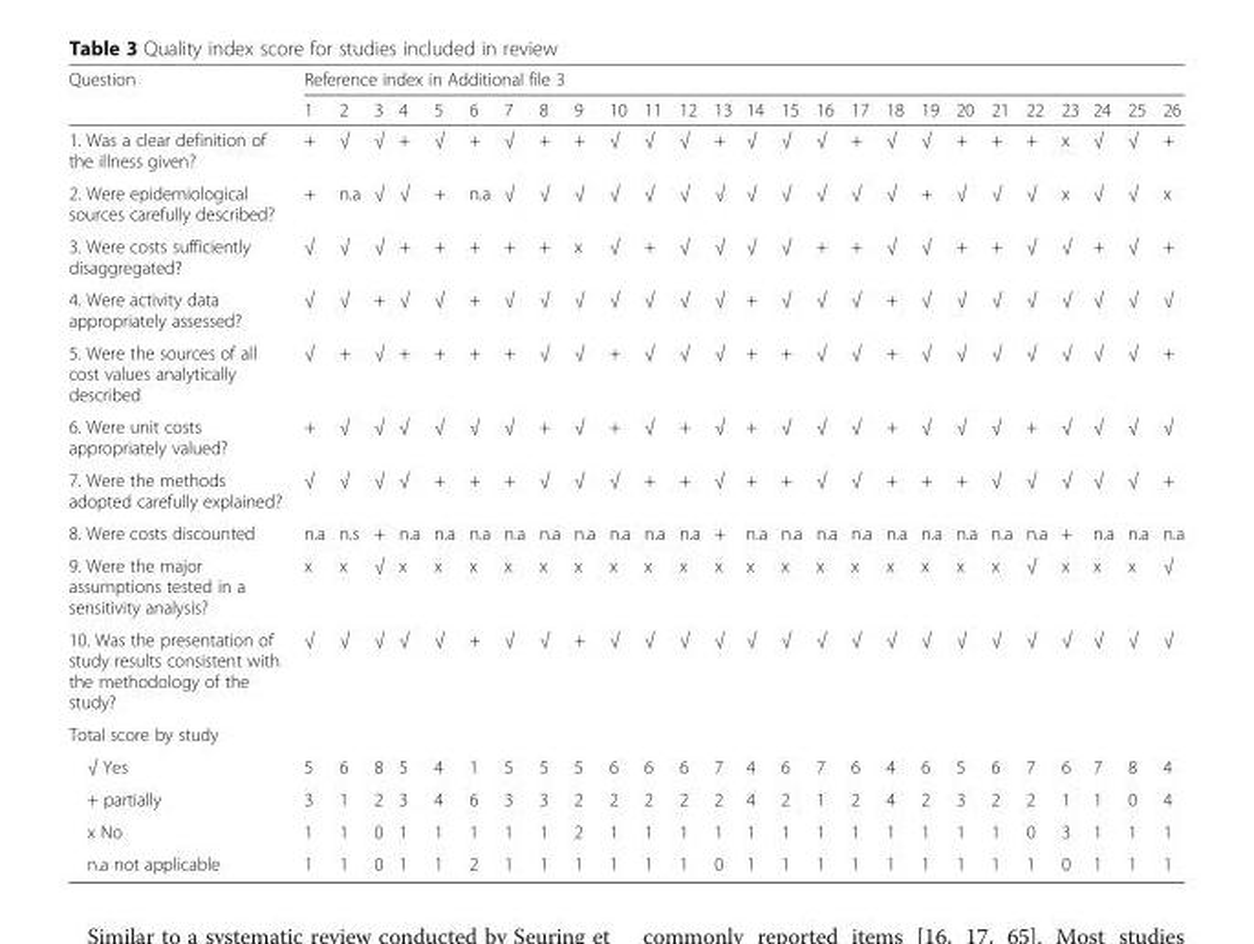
<table><thead><tr><td rowspan="2">Question</td><td colspan="26">Reference index in Additional file 3</td></tr><tr><td>1</td><td>2</td><td>3</td><td>4</td><td>5</td><td>6</td><td>7</td><td>8</td><td>9</td><td>10</td><td>11</td><td>12</td><td>13</td><td>14</td><td>15</td><td>16</td><td>17</td><td>18</td><td>19</td><td>20</td><td>21</td><td>22</td><td>23</td><td>24</td><td>25</td><td>26</td></tr></thead><tbody><tr><td>1. Was a clear definition of the illness given?</td><td>+</td><td>√</td><td>√</td><td>+</td><td>√</td><td>+</td><td>√</td><td>+</td><td>+</td><td>√</td><td>√</td><td>√</td><td>+</td><td>√</td><td>√</td><td>√</td><td>+</td><td>√</td><td>√</td><td>+</td><td>+</td><td>+</td><td>x</td><td>√</td><td>√</td><td>+</td></tr><tr><td>2. Were epidemiological sources carefully described?</td><td>+</td><td>n.a</td><td>√</td><td>√</td><td>+</td><td>n.a</td><td>√</td><td>√</td><td>√</td><td>√</td><td>√</td><td>√</td><td>√</td><td>√</td><td>√</td><td>√</td><td>√</td><td>√</td><td>+</td><td>√</td><td>√</td><td>√</td><td>x</td><td>√</td><td>√</td><td>x</td></tr><tr><td>3. Were costs sufficiently disaggregated?</td><td>√</td><td>√</td><td>√</td><td>+</td><td>+</td><td>+</td><td>+</td><td>+</td><td>x</td><td>√</td><td>+</td><td>√</td><td>√</td><td>√</td><td>√</td><td>+</td><td>+</td><td>√</td><td>√</td><td>+</td><td>+</td><td>√</td><td>√</td><td>+</td><td>√</td><td>+</td></tr><tr><td>4. Were activity data appropriately assessed?</td><td>√</td><td>√</td><td>+</td><td>√</td><td>√</td><td>+</td><td>√</td><td>√</td><td>√</td><td>√</td><td>√</td><td>√</td><td>√</td><td>+</td><td>√</td><td>√</td><td>√</td><td>+</td><td>√</td><td>√</td><td>√</td><td>√</td><td>√</td><td>√</td><td>√</td><td>√</td></tr><tr><td>5. Were the sources of all cost values analytically described</td><td>√</td><td>+</td><td>√</td><td>+</td><td>+</td><td>+</td><td>+</td><td>√</td><td>√</td><td>+</td><td>√</td><td>√</td><td>√</td><td>+</td><td>+</td><td>√</td><td>√</td><td>+</td><td>√</td><td>√</td><td>√</td><td>√</td><td>√</td><td>√</td><td>√</td><td>+</td></tr><tr><td>6. Were unit costs appropriately valued?</td><td>+</td><td>√</td><td>√</td><td>√</td><td>√</td><td>√</td><td>√</td><td>+</td><td>√</td><td>+</td><td>√</td><td>+</td><td>√</td><td>+</td><td>√</td><td>√</td><td>√</td><td>+</td><td>√</td><td>√</td><td>√</td><td>+</td><td>√</td><td>√</td><td>√</td><td>√</td></tr><tr><td>7. Were the methods adopted carefully explained?</td><td>√</td><td>√</td><td>√</td><td>√</td><td>+</td><td>+</td><td>+</td><td>√</td><td>√</td><td>√</td><td>+</td><td>+</td><td>√</td><td>+</td><td>+</td><td>√</td><td>√</td><td>+</td><td>+</td><td>+</td><td>√</td><td>√</td><td>√</td><td>√</td><td>√</td><td>+</td></tr><tr><td>8. Were costs discounted</td><td>n.a</td><td>n.s</td><td>+</td><td>n.a</td><td>n.a</td><td>n.a</td><td>n.a</td><td>n.a</td><td>n.a</td><td>n.a</td><td>n.a</td><td>n.a</td><td>+</td><td>n.a</td><td>n.a</td><td>n.a</td><td>n.a</td><td>n.a</td><td>n.a</td><td>n.a</td><td>n.a</td><td>n.a</td><td>+</td><td>n.a</td><td>n.a</td><td>n.a</td></tr><tr><td>9. Were the major assumptions tested in a sensitivity analysis?</td><td>x</td><td>x</td><td>√</td><td>x</td><td>x</td><td>x</td><td>x</td><td>x</td><td>x</td><td>x</td><td>x</td><td>x</td><td>x</td><td>x</td><td>x</td><td>x</td><td>x</td><td>x</td><td>x</td><td>x</td><td>x</td><td>√</td><td>x</td><td>x</td><td>x</td><td>√</td></tr><tr><td>10. Was the presentation of study results consistent with the methodology of the study?</td><td>√</td><td>√</td><td>√</td><td>√</td><td>√</td><td>+</td><td>√</td><td>√</td><td>+</td><td>√</td><td>√</td><td>√</td><td>√</td><td>√</td><td>√</td><td>√</td><td>√</td><td>√</td><td>√</td><td>√</td><td>√</td><td>√</td><td>√</td><td>√</td><td>√</td><td>√</td></tr><tr><td colspan="27">Total score by study</td></tr><tr><td>√ Yes</td><td>5</td><td>6</td><td>8</td><td>5</td><td>4</td><td>1</td><td>5</td><td>5</td><td>5</td><td>6</td><td>6</td><td>6</td><td>7</td><td>4</td><td>6</td><td>7</td><td>6</td><td>4</td><td>6</td><td>5</td><td>6</td><td>7</td><td>6</td><td>7</td><td>8</td><td>4</td></tr><tr><td>+ partially</td><td>3</td><td>1</td><td>2</td><td>3</td><td>4</td><td>6</td><td>3</td><td>3</td><td>2</td><td>2</td><td>2</td><td>2</td><td>2</td><td>4</td><td>2</td><td>1</td><td>2</td><td>4</td><td>2</td><td>3</td><td>2</td><td>2</td><td>1</td><td>1</td><td>0</td><td>4</td></tr><tr><td>x No</td><td>1</td><td>1</td><td>0</td><td>1</td><td>1</td><td>1</td><td>1</td><td>1</td><td>2</td><td>1</td><td>1</td><td>1</td><td>1</td><td>1</td><td>1</td><td>1</td><td>1</td><td>1</td><td>1</td><td>1</td><td>1</td><td>0</td><td>3</td><td>1</td><td>1</td><td>1</td></tr><tr><td>n.a not applicable</td><td>1</td><td>1</td><td>0</td><td>1</td><td>1</td><td>2</td><td>1</td><td>1</td><td>1</td><td>1</td><td>1</td><td>1</td><td>0</td><td>1</td><td>1</td><td>1</td><td>1</td><td>1</td><td>1</td><td>1</td><td>1</td><td>1</td><td>0</td><td>1</td><td>1</td><td>1</td></tr></tbody></table>